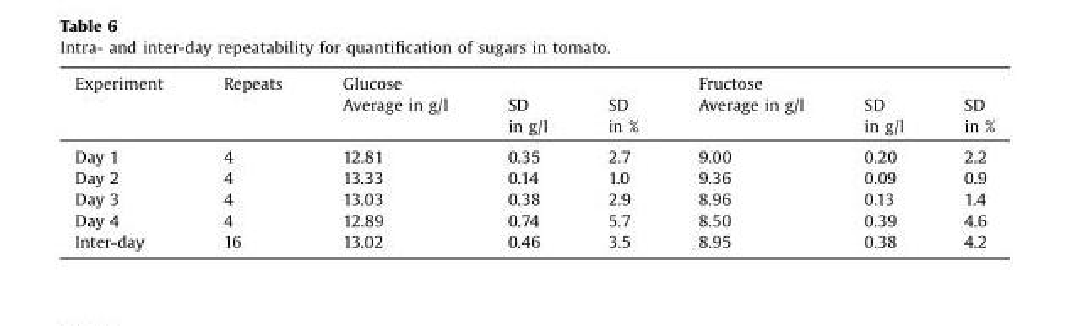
<table><thead><tr><td rowspan="2">Experiment</td><td rowspan="2">Repeats</td><td rowspan="2">Glucose Average in g/l</td><td rowspan="2">SD in g/l</td><td rowspan="2">SD in %</td><td rowspan="2">Fructose Average in g/l</td><td rowspan="2">SD in g/l</td><td rowspan="2">SD in %</td></tr><tr></tr></thead><tbody><tr><td>Day 1</td><td>4</td><td>12.81</td><td>0.35</td><td>2.7</td><td>9.00</td><td>0.20</td><td>2.2</td></tr><tr><td>Day 2</td><td>4</td><td>13.33</td><td>0.14</td><td>1.0</td><td>9.36</td><td>0.09</td><td>0.9</td></tr><tr><td>Day 3</td><td>4</td><td>13.03</td><td>0.38</td><td>2.9</td><td>8.96</td><td>0.13</td><td>1.4</td></tr><tr><td>Day 4</td><td>4</td><td>12.89</td><td>0.74</td><td>5.7</td><td>8.50</td><td>0.39</td><td>4.6</td></tr><tr><td>Inter-day</td><td>16</td><td>13.02</td><td>0.46</td><td>3.5</td><td>8.95</td><td>0.38</td><td>4.2</td></tr></tbody></table>